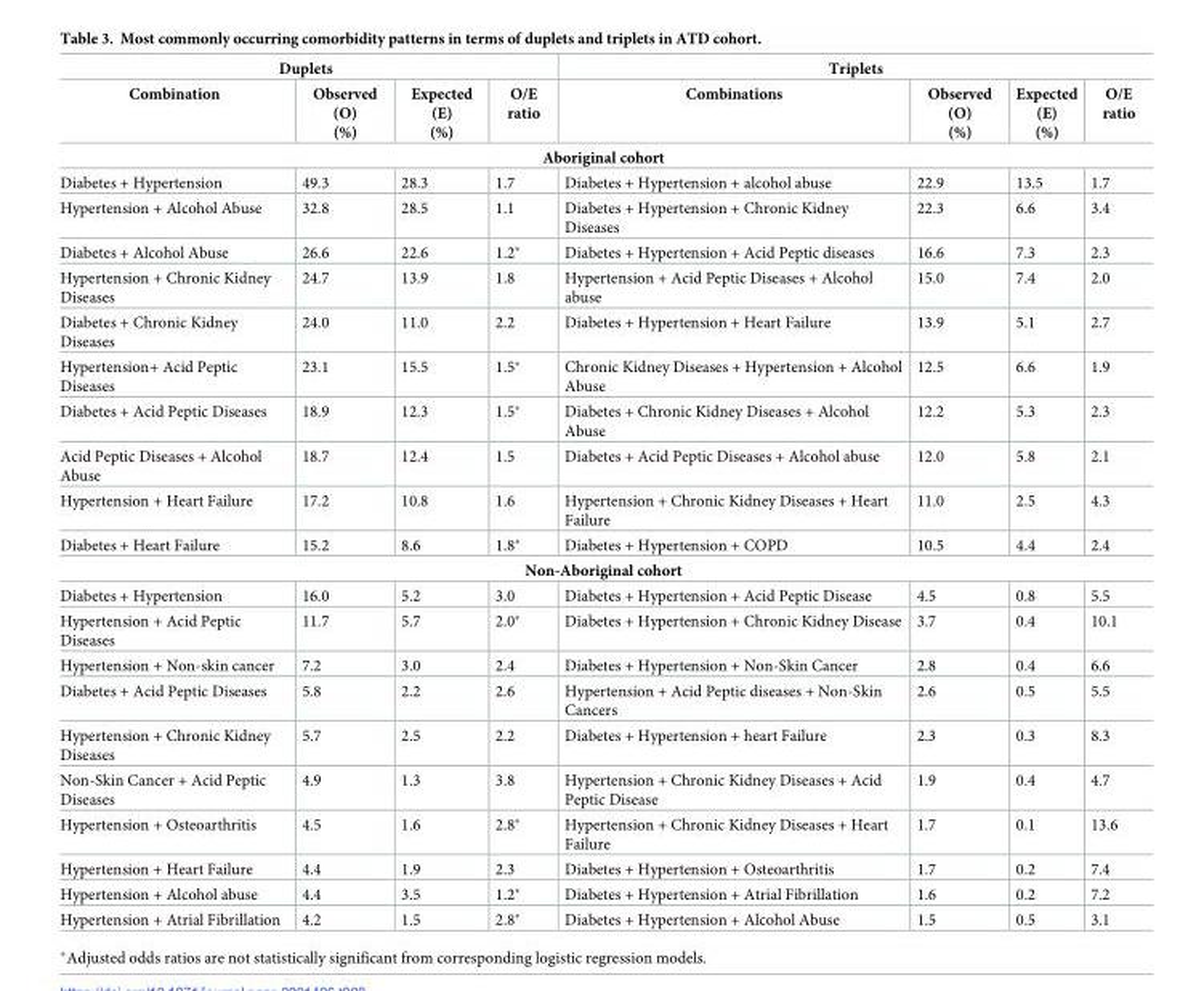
<table><thead><tr><td colspan="4">Duplets</td><td colspan="4">Triplets</td></tr><tr><td>Combination</td><td>Observed (O) (%)</td><td>Expected (E) (%)</td><td>O/E ratio</td><td>Combinations</td><td>Observed (O) (%)</td><td>Expected (E) (%)</td><td>O/E ratio</td></tr></thead><tbody><tr><td colspan="8">Aboriginal cohort</td></tr><tr><td>Diabetes + Hypertension</td><td>49.3</td><td>28.3</td><td>1.7</td><td>Diabetes + Hypertension + alcohol abuse</td><td>22.9</td><td>13.5</td><td>1.7</td></tr><tr><td>Hypertension + Alcohol Abuse</td><td>32.8</td><td>28.5</td><td>1.1</td><td>Diabetes + Hypertension + Chronic Kidney Diseases</td><td>22.3</td><td>6.6</td><td>3.4</td></tr><tr><td>Diabetes + Alcohol Abuse</td><td>26.6</td><td>22.6</td><td>1.2*</td><td>Diabetes + Hypertension + Acid Peptic diseases</td><td>16.6</td><td>7.3</td><td>2.3</td></tr><tr><td>Hypertension + Chronic Kidney Diseases</td><td>24.7</td><td>13.9</td><td>1.8</td><td>Hypertension + Acid Peptic Diseases + Alcohol abuse</td><td>15.0</td><td>7.4</td><td>2.0</td></tr><tr><td>Diabetes + Chronic Kidney Diseases</td><td>24.0</td><td>11.0</td><td>2.2</td><td>Diabetes + Hypertension + Heart Failure</td><td>13.9</td><td>5.1</td><td>2.7</td></tr><tr><td>Hypertension+ Acid Peptic Diseases</td><td>23.1</td><td>15.5</td><td>1.5*</td><td>Chronic Kidney Diseases + Hypertension + Alcohol Abuse</td><td>12.5</td><td>6.6</td><td>1.9</td></tr><tr><td>Diabetes + Acid Peptic Diseases</td><td>18.9</td><td>12.3</td><td>1.5*</td><td>Diabetes + Chronic Kidney Diseases + Alcohol Abuse</td><td>12.2</td><td>5.3</td><td>2.3</td></tr><tr><td>Acid Peptic Diseases + Alcohol Abuse</td><td>18.7</td><td>12.4</td><td>1.5</td><td>Diabetes + Acid Peptic Diseases + Alcohol abuse</td><td>12.0</td><td>5.8</td><td>2.1</td></tr><tr><td>Hypertension + Heart Failure</td><td>17.2</td><td>10.8</td><td>1.6</td><td>Hypertension + Chronic Kidney Diseases + Heart Failure</td><td>11.0</td><td>2.5</td><td>4.3</td></tr><tr><td>Diabetes + Heart Failure</td><td>15.2</td><td>8.6</td><td>1.8*</td><td>Diabetes + Hypertension + COPD</td><td>10.5</td><td>4.4</td><td>2.4</td></tr><tr><td colspan="8">Non-Aboriginal cohort</td></tr><tr><td>Diabetes + Hypertension</td><td>16.0</td><td>5.2</td><td>3.0</td><td>Diabetes + Hypertension + Acid Peptic Disease</td><td>4.5</td><td>0.8</td><td>5.5</td></tr><tr><td>Hypertension + Acid Peptic Diseases</td><td>11.7</td><td>5.7</td><td>2.0*</td><td>Diabetes + Hypertension + Chronic Kidney Disease</td><td>3.7</td><td>0.4</td><td>10.1</td></tr><tr><td>Hypertension + Non-skin cancer</td><td>7.2</td><td>3.0</td><td>2.4</td><td>Diabetes + Hypertension + Non-Skin Cancer</td><td>2.8</td><td>0.4</td><td>6.6</td></tr><tr><td>Diabetes + Acid Peptic Diseases</td><td>5.8</td><td>2.2</td><td>2.6</td><td>Hypertension + Acid Peptic diseases + Non-Skin Cancers</td><td>2.6</td><td>0.5</td><td>5.5</td></tr><tr><td>Hypertension + Chronic Kidney Diseases</td><td>5.7</td><td>2.5</td><td>2.2</td><td>Diabetes + Hypertension + heart Failure</td><td>2.3</td><td>0.3</td><td>8.3</td></tr><tr><td>Non-Skin Cancer + Acid Peptic Diseases</td><td>4.9</td><td>1.3</td><td>3.8</td><td>Hypertension + Chronic Kidney Diseases + Acid Peptic Disease</td><td>1.9</td><td>0.4</td><td>4.7</td></tr><tr><td>Hypertension + Osteoarthritis</td><td>4.5</td><td>1.6</td><td>2.8*</td><td>Hypertension + Chronic Kidney Diseases + Heart Failure</td><td>1.7</td><td>0.1</td><td>13.6</td></tr><tr><td>Hypertension + Heart Failure</td><td>4.4</td><td>1.9</td><td>2.3</td><td>Diabetes + Hypertension + Osteoarthritis</td><td>1.7</td><td>0.2</td><td>7.4</td></tr><tr><td>Hypertension + Alcohol abuse</td><td>4.4</td><td>3.5</td><td>1.2*</td><td>Diabetes + Hypertension + Atrial Fibrillation</td><td>1.6</td><td>0.2</td><td>7.2</td></tr><tr><td>Hypertension + Atrial Fibrillation</td><td>4.2</td><td>1.5</td><td>2.8*</td><td>Diabetes + Hypertension + Alcohol Abuse</td><td>1.5</td><td>0.5</td><td>3.1</td></tr></tbody></table>